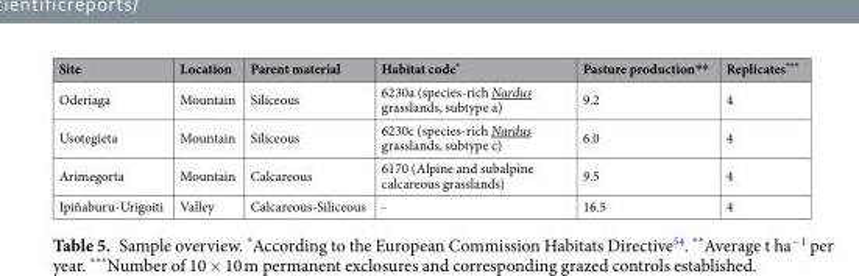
<table><thead><tr><td>Site</td><td>Location</td><td>Parent material</td><td>Habitat code*</td><td>Pasture production**</td><td>Replicates***</td></tr></thead><tbody><tr><td>Oderiaga</td><td>Mountain</td><td>Siliceous</td><td>6230a (species-rich Nardus grasslands, subtype a)</td><td>9.2</td><td>4</td></tr><tr><td>Usotegieta</td><td>Mountain</td><td>Siliceous</td><td>6230c (species-rich Nardus grasslands, subtype c)</td><td>6.0</td><td>4</td></tr><tr><td>Arimegorta</td><td>Mountain</td><td>Calcareous</td><td>6170 (Alpine and subalpine calcareous grasslands)</td><td>9.5</td><td>4</td></tr><tr><td>Ipiñaburu-Urigoiti</td><td>Valley</td><td>Calcareous-Siliceous</td><td>-</td><td>16.5</td><td>4</td></tr></tbody></table>